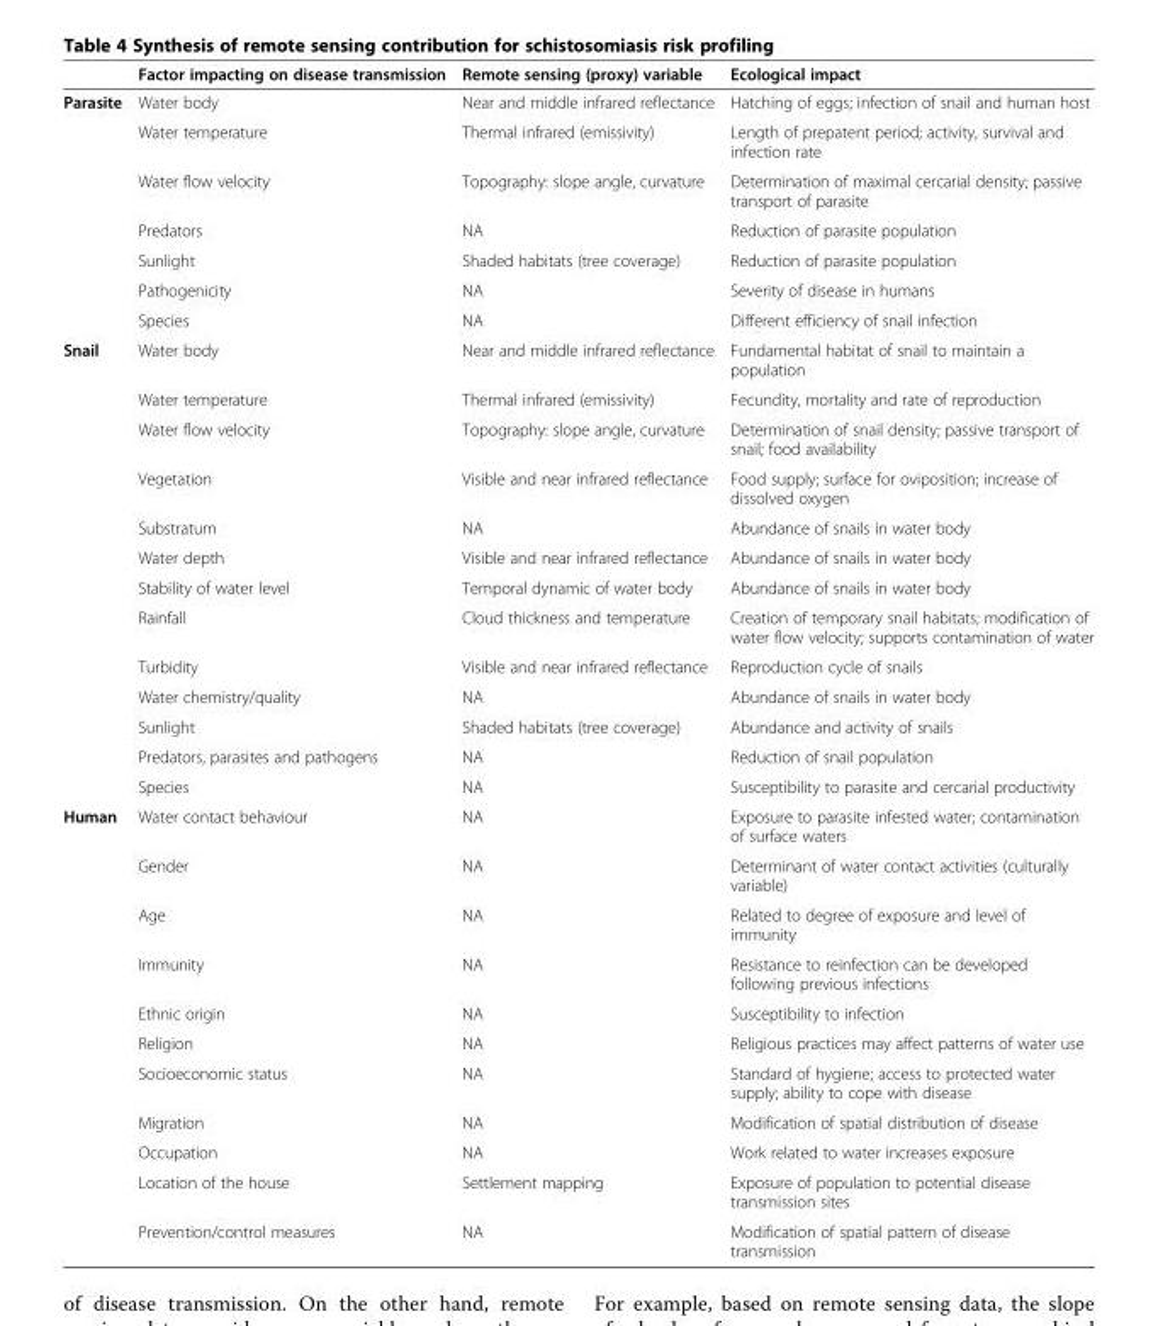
<table><thead><tr><td></td><td>Factor impacting on disease transmission</td><td>Remote sensing (proxy) variable</td><td>Ecological impact</td></tr></thead><tbody><tr><td rowspan="7">Parasite</td><td>Water body</td><td>Near and middle infrared reflectance</td><td>Hatching of eggs; infection of snail and human host</td></tr><tr><td>Water temperature</td><td>Thermal infrared (emissivity)</td><td>Length of prepatent period; activity, survival and infection rate</td></tr><tr><td>Water flow velocity</td><td>Topography: slope angle, curvature</td><td>Determination of maximal cercarial density; passive transport of parasite</td></tr><tr><td>Predators</td><td>NA</td><td>Reduction of parasite population</td></tr><tr><td>Sunlight</td><td>Shaded habitats (tree coverage)</td><td>Reduction of parasite population</td></tr><tr><td>Pathogenicity</td><td>NA</td><td>Severity of disease in humans</td></tr><tr><td>Species</td><td>NA</td><td>Different efficiency of snail infection</td></tr><tr><td rowspan="13">Snail</td><td>Water body</td><td>Near and middle infrared reflectance</td><td>Fundamental habitat of snail to maintain a population</td></tr><tr><td>Water temperature</td><td>Thermal infrared (emissivity)</td><td>Fecundity, mortality and rate of reproduction</td></tr><tr><td>Water flow velocity</td><td>Topography: slope angle, curvature</td><td>Determination of snail density; passive transport of snail; food availability</td></tr><tr><td>Vegetation</td><td>Visible and near infrared reflectance</td><td>Food supply; surface for oviposition; increase of dissolved oxygen</td></tr><tr><td>Substratum</td><td>NA</td><td>Abundance of snails in water body</td></tr><tr><td>Water depth</td><td>Visible and near infrared reflectance</td><td>Abundance of snails in water body</td></tr><tr><td>Stability of water level</td><td>Temporal dynamic of water body</td><td>Abundance of snails in water body</td></tr><tr><td>Rainfall</td><td>Cloud thickness and temperature</td><td>Creation of temporary snail habitats; modification of water flow velocity; supports contamination of water</td></tr><tr><td>Turbidity</td><td>Visible and near infrared reflectance</td><td>Reproduction cycle of snails</td></tr><tr><td>Water chemistry/quality</td><td>NA</td><td>Abundance of snails in water body</td></tr><tr><td>Sunlight</td><td>Shaded habitats (tree coverage)</td><td>Abundance and activity of snails</td></tr><tr><td>Predators, parasites and pathogens</td><td>NA</td><td>Reduction of snail population</td></tr><tr><td>Species</td><td>NA</td><td>Susceptibility to parasite and cercarial productivity</td></tr><tr><td rowspan="11">Human</td><td>Water contact behaviour</td><td>NA</td><td>Exposure to parasite infested water; contamination of surface waters</td></tr><tr><td>Gender</td><td>NA</td><td>Determinant of water contact activities (culturally variable)</td></tr><tr><td>Age</td><td>NA</td><td>Related to degree of exposure and level of immunity</td></tr><tr><td>Immunity</td><td>NA</td><td>Resistance to reinfection can be developed following previous infections</td></tr><tr><td>Ethnic origin</td><td>NA</td><td>Susceptibility to infection</td></tr><tr><td>Religion</td><td>NA</td><td>Religious practices may affect patterns of water use</td></tr><tr><td>Socioeconomic status</td><td>NA</td><td>Standard of hygiene; access to protected water supply; ability to cope with disease</td></tr><tr><td>Migration</td><td>NA</td><td>Modification of spatial distribution of disease</td></tr><tr><td>Occupation</td><td>NA</td><td>Work related to water increases exposure</td></tr><tr><td>Location of the house</td><td>Settlement mapping</td><td>Exposure of population to potential disease transmission sites</td></tr><tr><td>Prevention/control measures</td><td>NA</td><td>Modification of spatial pattern of disease transmission</td></tr></tbody></table>